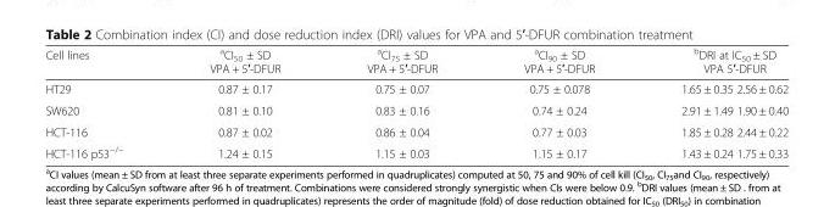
<table><thead><tr><td>Cell lines</td><td><sup>a</sup>CI<sub>50</sub> ± SD VPA + 5′-DFUR</td><td><sup>a</sup>CI<sub>75</sub> ± SD VPA + 5′-DFUR</td><td><sup>a</sup>CI<sub>90</sub> ± SD VPA + 5′-DFUR</td><td><sup>b</sup>DRI at IC<sub>50</sub> ± SD VPA 5′-DFUR</td></tr></thead><tbody><tr><td>HT29</td><td>0.87 ± 0.17</td><td>0.75 ± 0.07</td><td>0.75 ± 0.078</td><td>1.65 ± 0.35 2.56 ± 0.62</td></tr><tr><td>SW620</td><td>0.81 ± 0.10</td><td>0.83 ± 0.16</td><td>0.74 ± 0.24</td><td>2.91 ± 1.49 1.90 ± 0.40</td></tr><tr><td>HCT-116</td><td>0.87 ± 0.02</td><td>0.86 ± 0.04</td><td>0.77 ± 0.03</td><td>1.85 ± 0.28 2.44 ± 0.22</td></tr><tr><td>HCT-116 p53<sup>−/−</sup></td><td>1.24 ± 0.15</td><td>1.15 ± 0.03</td><td>1.15 ± 0.17</td><td>1.43 ± 0.24 1.75 ± 0.33</td></tr></tbody></table>